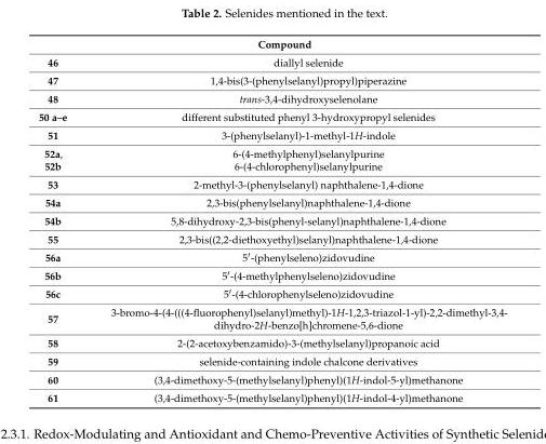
<table><thead><tr><td colspan="2">Compound</td></tr><tr><td>46</td><td>diallyl selenide</td></tr></thead><tbody><tr><td>47</td><td>1,4-bis(3-(phenylselanyl)propyl)piperazine</td></tr><tr><td>48</td><td>trans-3,4-dihydroxyselenolane</td></tr><tr><td>50 a–e</td><td>different substituted phenyl 3-hydroxypropyl selenides</td></tr><tr><td>51</td><td>3-(phenylselanyl)-1-methyl-1H-indole</td></tr><tr><td>52a, 52b</td><td>6-(4-methylphenyl)selanylpurine 6-(4-chlorophenyl)selanylpurine</td></tr><tr><td>53</td><td>2-methyl-3-(phenylselanyl) naphthalene-1,4-dione</td></tr><tr><td>54a</td><td>2,3-bis(phenylselanyl)naphthalene-1,4-dione</td></tr><tr><td>54b</td><td>5,8-dihydroxy-2,3-bis(phenyl-selanyl)naphthalene-1,4-dione</td></tr><tr><td>55</td><td>2,3-bis((2,2-diethoxyethyl)selanyl)naphthalene-1,4-dione</td></tr><tr><td>56a</td><td>5′-(phenylseleno)zidovudine</td></tr><tr><td>56b</td><td>5′-(4-methylphenylseleno)zidovudine</td></tr><tr><td>56c</td><td>5′-(4-chlorophenylseleno)zidovudine</td></tr><tr><td>57</td><td>3-bromo-4-(4-(((4-fluorophenyl)selanyl)methyl)-1H-1,2,3-triazol-1-yl)-2,2-dimethyl-3,4- dihydro-2H-benzo[h]chromene-5,6-dione</td></tr><tr><td>58</td><td>2-(2-acetoxybenzamido)-3-(methylselanyl)propanoic acid</td></tr><tr><td>59</td><td>selenide-containing indole chalcone derivatives</td></tr><tr><td>60</td><td>(3,4-dimethoxy-5-(methylselanyl)phenyl)(1H-indol-5-yl)methanone</td></tr><tr><td>61</td><td>(3,4-dimethoxy-5-(methylselanyl)phenyl)(1H-indol-4-yl)methanone</td></tr></tbody></table>